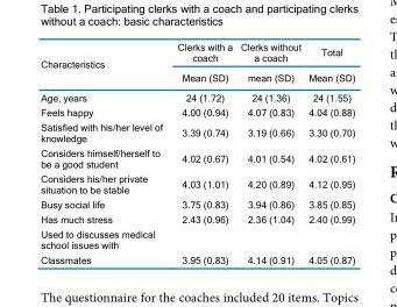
<table><thead><tr><td rowspan="2">Characteristics</td><td rowspan="2">Clerks with a coach Mean (SD)</td><td rowspan="2">Clerks without a coach mean (SD)</td><td rowspan="2">Total Mean (SD)</td></tr><tr></tr></thead><tbody><tr><td>Age, years</td><td>24 (1.72)</td><td>24 (1.36)</td><td>24 (1.55)</td></tr><tr><td>Feels happy</td><td>4.00 (0.94)</td><td>4.07 (0.83)</td><td>4.04 (0.88)</td></tr><tr><td>Satisfied with his/her level of knowledge</td><td>3.39 (0.74)</td><td>3.19 (0.66)</td><td>3.30 (0.70)</td></tr><tr><td>Considers himself/herself to be a good student</td><td>4.02 (0.67)</td><td>4.01 (0.54)</td><td>4.02 (0.61)</td></tr><tr><td>Considers his/her private situation to be stable</td><td>4.03 (1.01)</td><td>4.20 (0.89)</td><td>4.12 (0.95)</td></tr><tr><td>Busy social life</td><td>3.75 (0.83)</td><td>3.94 (0.86)</td><td>3.85 (0.85)</td></tr><tr><td>Has much stress</td><td>2.43 (0.96)</td><td>2.36 (1.04)</td><td>2.40 (0.99)</td></tr><tr><td colspan="4">Used to discusses medical school issues with</td></tr><tr><td>Classmates</td><td>3.95 (0.83)</td><td>4.14 (0.91)</td><td>4.05 (0.87)</td></tr></tbody></table>